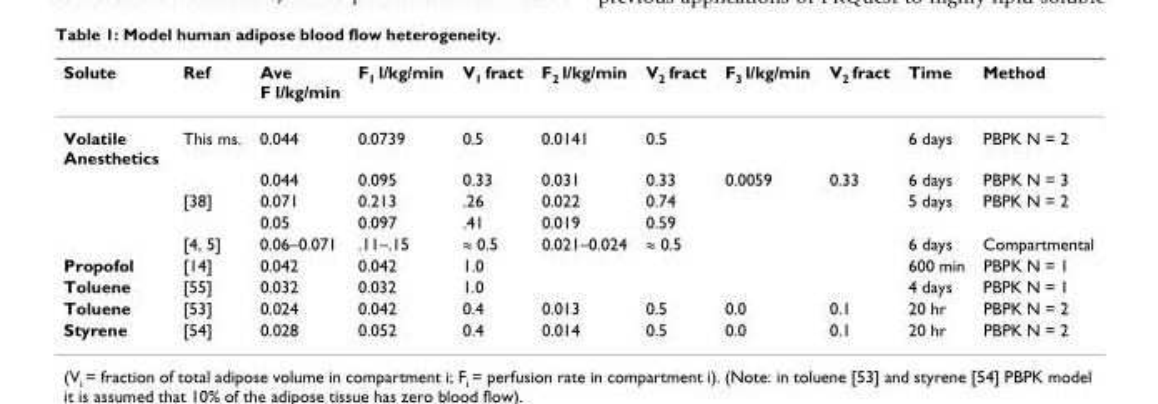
<table><thead><tr><td>Solute</td><td>Ref</td><td>Ave F l/kg/min</td><td>F<sub>1</sub> l/kg/min</td><td>V<sub>1</sub> fract</td><td>F<sub>2</sub> l/kg/min</td><td>V<sub>2</sub> fract</td><td>F<sub>3</sub> l/kg/min</td><td>V<sub>2</sub> fract</td><td>Time</td><td>Method</td></tr></thead><tbody><tr><td rowspan="5">Volatile Anesthetics</td><td>This ms.</td><td>0.044</td><td>0.0739</td><td>0.5</td><td>0.0141</td><td>0.5</td><td></td><td></td><td>6 days</td><td>PBPK N = 2</td></tr><tr><td></td><td>0.044</td><td>0.095</td><td>0.33</td><td>0.031</td><td>0.33</td><td>0.0059</td><td>0.33</td><td>6 days</td><td>PBPK N = 3</td></tr><tr><td>[38]</td><td>0.071</td><td>0.213</td><td>.26</td><td>0.022</td><td>0.74</td><td></td><td></td><td>5 days</td><td>PBPK N = 2</td></tr><tr><td></td><td>0.05</td><td>0.097</td><td>.41</td><td>0.019</td><td>0.59</td><td></td><td></td><td></td><td></td></tr><tr><td>[4, 5]</td><td>0.06–0.071</td><td>.11–.15</td><td>≈ 0.5</td><td>0.021–0.024</td><td>≈ 0.5</td><td></td><td></td><td>6 days</td><td>Compartmental</td></tr><tr><td>Propofol</td><td>[14]</td><td>0.042</td><td>0.042</td><td>1.0</td><td></td><td></td><td></td><td></td><td>600 min</td><td>PBPK N = 1</td></tr><tr><td>Toluene</td><td>[55]</td><td>0.032</td><td>0.032</td><td>1.0</td><td></td><td></td><td></td><td></td><td>4 days</td><td>PBPK N = 1</td></tr><tr><td>Toluene</td><td>[53]</td><td>0.024</td><td>0.042</td><td>0.4</td><td>0.013</td><td>0.5</td><td>0.0</td><td>0.1</td><td>20 hr</td><td>PBPK N = 2</td></tr><tr><td>Styrene</td><td>[54]</td><td>0.028</td><td>0.052</td><td>0.4</td><td>0.014</td><td>0.5</td><td>0.0</td><td>0.1</td><td>20 hr</td><td>PBPK N = 2</td></tr></tbody></table>